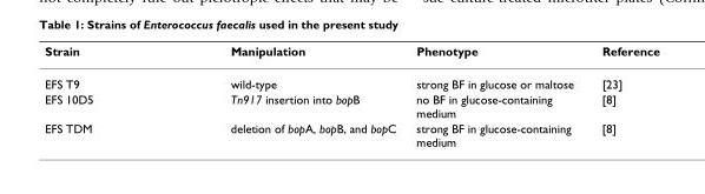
<table><thead><tr><td>Strain</td><td>Manipulation</td><td>Phenotype</td><td>Reference</td></tr></thead><tbody><tr><td>EFS T9</td><td>wild-type</td><td>strong BF in glucose or maltose</td><td>[23]</td></tr><tr><td>EFS 10D5</td><td>Tn917 insertion into bopB</td><td>no BF in glucose-containing medium</td><td>[8]</td></tr><tr><td>EFS TDM</td><td>deletion of bopA, bopB, and bopC</td><td>strong BF in glucose-containing medium</td><td>[8]</td></tr></tbody></table>